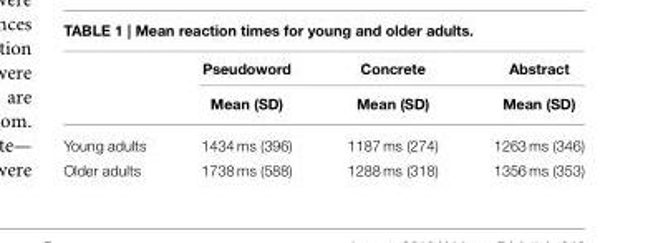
<table><thead><tr><td rowspan="2"></td><td rowspan="2">Pseudoword Mean (SD)</td><td rowspan="2">Concrete Mean (SD)</td><td rowspan="2">Abstract Mean (SD)</td></tr><tr></tr></thead><tbody><tr><td>Young adults</td><td>1434 ms (396)</td><td>1187 ms (274)</td><td>1263 ms (346)</td></tr><tr><td>Older adults</td><td>1738 ms (588)</td><td>1288 ms (318)</td><td>1356 ms (353)</td></tr></tbody></table>